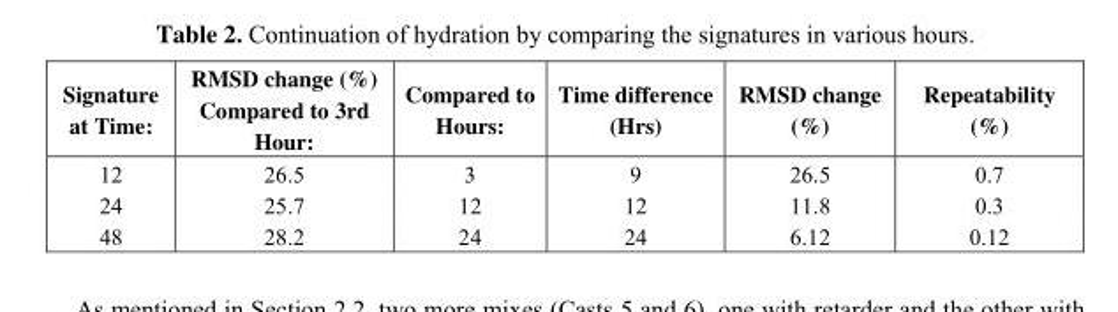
<table><thead><tr><td>Signature at Time:</td><td>RMSD change (%) Compared to 3rd Hour:</td><td>Compared to Hours:</td><td>Time difference (Hrs)</td><td>RMSD change (%)</td><td>Repeatability (%)</td></tr></thead><tbody><tr><td>12</td><td>26.5</td><td>3</td><td>9</td><td>26.5</td><td>0.7</td></tr><tr><td>24</td><td>25.7</td><td>12</td><td>12</td><td>11.8</td><td>0.3</td></tr><tr><td>48</td><td>28.2</td><td>24</td><td>24</td><td>6.12</td><td>0.12</td></tr></tbody></table>